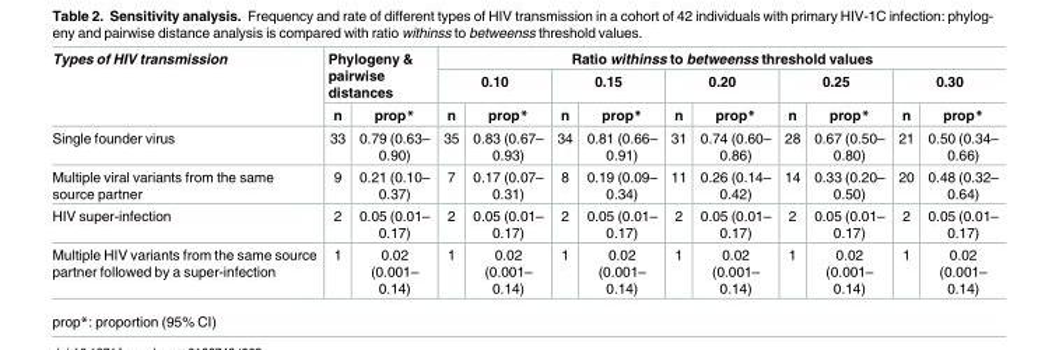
<table><thead><tr><td rowspan="3">Types of HIV transmission</td><td rowspan="2" colspan="2">Phylogeny &amp; pairwise distances</td><td colspan="10">Ratio withinss to betweenss threshold values</td></tr><tr><td colspan="2">0.10</td><td colspan="2">0.15</td><td colspan="2">0.20</td><td colspan="2">0.25</td><td colspan="2">0.30</td></tr><tr><td>n</td><td>prop*</td><td>n</td><td>prop*</td><td>n</td><td>prop*</td><td>n</td><td>prop*</td><td>n</td><td>prop*</td><td>n</td><td>prop*</td></tr></thead><tbody><tr><td>Single founder virus</td><td>33</td><td>0.79 (0.63– 0.90)</td><td>35</td><td>0.83 (0.67– 0.93)</td><td>34</td><td>0.81 (0.66– 0.91)</td><td>31</td><td>0.74 (0.60– 0.86)</td><td>28</td><td>0.67 (0.50– 0.80)</td><td>21</td><td>0.50 (0.34– 0.66)</td></tr><tr><td>Multiple viral variants from the same source partner</td><td>9</td><td>0.21 (0.10– 0.37)</td><td>7</td><td>0.17 (0.07– 0.31)</td><td>8</td><td>0.19 (0.09– 0.34)</td><td>11</td><td>0.26 (0.14– 0.42)</td><td>14</td><td>0.33 (0.20– 0.50)</td><td>20</td><td>0.48 (0.32– 0.64)</td></tr><tr><td>HIV super-infection</td><td>2</td><td>0.05 (0.01– 0.17)</td><td>2</td><td>0.05 (0.01– 0.17)</td><td>2</td><td>0.05 (0.01– 0.17)</td><td>2</td><td>0.05 (0.01– 0.17)</td><td>2</td><td>0.05 (0.01– 0.17)</td><td>2</td><td>0.05 (0.01– 0.17)</td></tr><tr><td>Multiple HIV variants from the same source partner followed by a super-infection</td><td>1</td><td>0.02 (0.001– 0.14)</td><td>1</td><td>0.02 (0.001– 0.14)</td><td>1</td><td>0.02 (0.001– 0.14)</td><td>1</td><td>0.02 (0.001– 0.14)</td><td>1</td><td>0.02 (0.001– 0.14)</td><td>1</td><td>0.02 (0.001– 0.14)</td></tr></tbody></table>